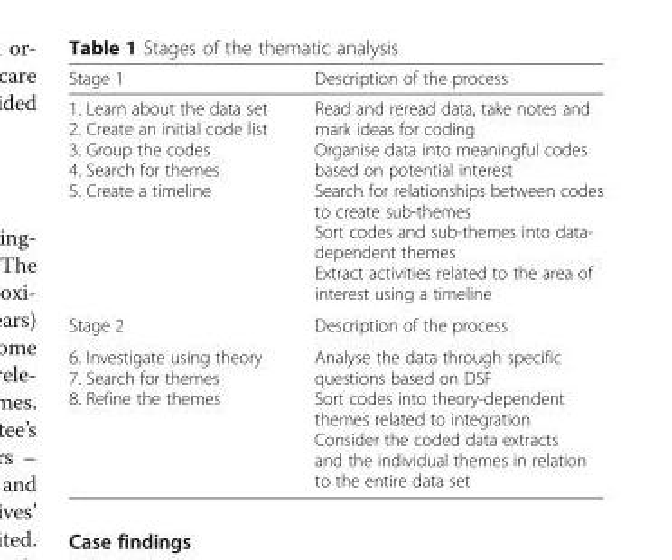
<table><thead><tr><td>Stage 1</td><td>Description of the process</td></tr></thead><tbody><tr><td>1. Learn about the data set 2. Create an initial code list 3. Group the codes 4. Search for themes 5. Create a timeline</td><td>Read and reread data, take notes and mark ideas for coding Organise data into meaningful codes based on potential interest Search for relationships between codes to create sub-themes Sort codes and sub-themes into data- dependent themes Extract activities related to the area of interest using a timeline</td></tr><tr><td>Stage 2</td><td>Description of the process</td></tr><tr><td>6. Investigate using theory 7. Search for themes 8. Refine the themes</td><td>Analyse the data through specific questions based on DSF Sort codes into theory-dependent themes related to integration Consider the coded data extracts and the individual themes in relation to the entire data set</td></tr></tbody></table>